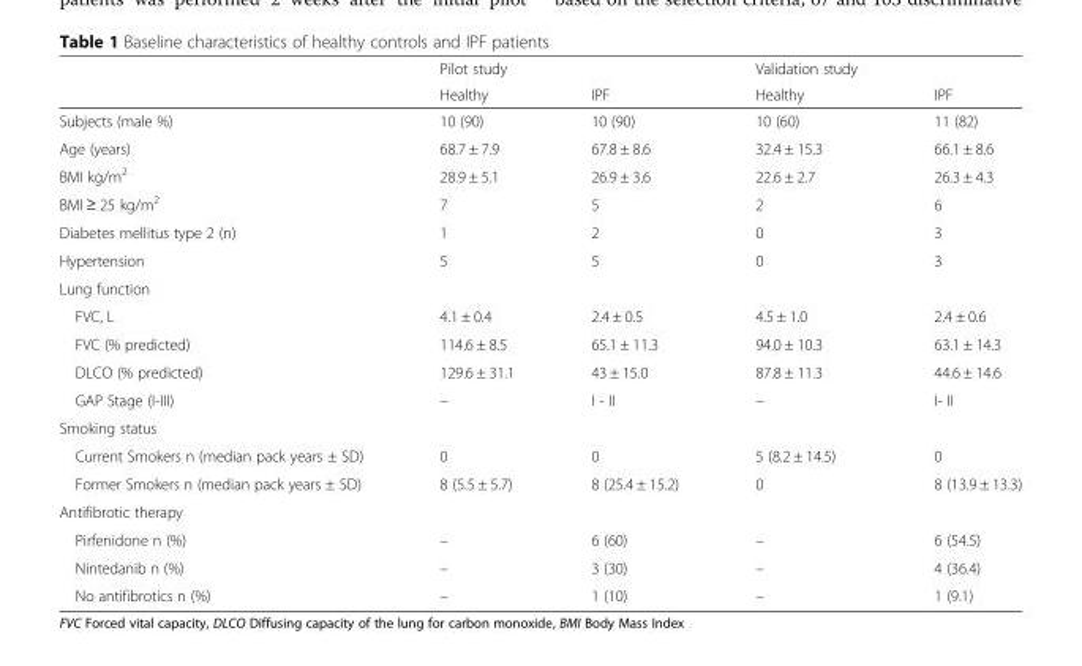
<table><thead><tr><td rowspan="2"></td><td rowspan="2">Pilot study Healthy</td><td rowspan="2">IPF</td><td rowspan="2">Validation study Healthy</td><td rowspan="2">IPF</td></tr><tr></tr></thead><tbody><tr><td>Subjects (male %)</td><td>10 (90)</td><td>10 (90)</td><td>10 (60)</td><td>11 (82)</td></tr><tr><td>Age (years)</td><td>68.7 ± 7.9</td><td>67.8 ± 8.6</td><td>32.4 ± 15.3</td><td>66.1 ± 8.6</td></tr><tr><td>BMI kg/m<sup>2</sup></td><td>28.9 ± 5.1</td><td>26.9 ± 3.6</td><td>22.6 ± 2.7</td><td>26.3 ± 4.3</td></tr><tr><td>BMI ≥ 25 kg/m<sup>2</sup></td><td>7</td><td>5</td><td>2</td><td>6</td></tr><tr><td>Diabetes mellitus type 2 (n)</td><td>1</td><td>2</td><td>0</td><td>3</td></tr><tr><td>Hypertension</td><td>5</td><td>5</td><td>0</td><td>3</td></tr><tr><td colspan="5">Lung function</td></tr><tr><td>FVC, L</td><td>4.1 ± 0.4</td><td>2.4 ± 0.5</td><td>4.5 ± 1.0</td><td>2.4 ± 0.6</td></tr><tr><td>FVC (% predicted)</td><td>114.6 ± 8.5</td><td>65.1 ± 11.3</td><td>94.0 ± 10.3</td><td>63.1 ± 14.3</td></tr><tr><td>DLCO (% predicted)</td><td>129.6 ± 31.1</td><td>43 ± 15.0</td><td>87.8 ± 11.3</td><td>44.6 ± 14.6</td></tr><tr><td>GAP Stage (I-III)</td><td>–</td><td>I - II</td><td>–</td><td>I- II</td></tr><tr><td colspan="5">Smoking status</td></tr><tr><td>Current Smokers n (median pack years ± SD)</td><td>0</td><td>0</td><td>5 (8.2 ± 14.5)</td><td>0</td></tr><tr><td>Former Smokers n (median pack years ± SD)</td><td>8 (5.5 ± 5.7)</td><td>8 (25.4 ± 15.2)</td><td>0</td><td>8 (13.9 ± 13.3)</td></tr><tr><td colspan="5">Antifibrotic therapy</td></tr><tr><td>Pirfenidone n (%)</td><td>–</td><td>6 (60)</td><td>–</td><td>6 (54.5)</td></tr><tr><td>Nintedanib n (%)</td><td>–</td><td>3 (30)</td><td>–</td><td>4 (36.4)</td></tr><tr><td>No antifibrotics n (%)</td><td>–</td><td>1 (10)</td><td>–</td><td>1 (9.1)</td></tr></tbody></table>